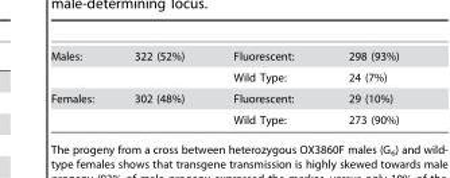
<table><tbody><tr><td rowspan="2">Males:</td><td>322 (52%)</td><td>Fluorescent:</td><td>298 (93%)</td></tr><tr><td></td><td>Wild Type:</td><td>24 (7%)</td></tr><tr><td rowspan="2">Females:</td><td>302 (48%)</td><td>Fluorescent:</td><td>29 (10%)</td></tr><tr><td></td><td>Wild Type:</td><td>273 (90%)</td></tr></tbody></table>